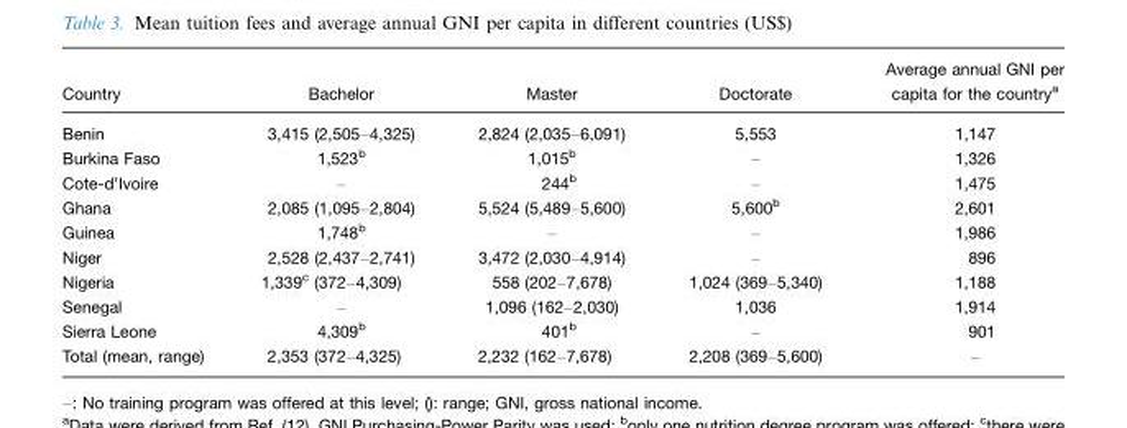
<table><thead><tr><td>Country</td><td>Bachelor</td><td>Master</td><td>Doctorate</td><td>Average annual GNI per capita for the country<sup>a</sup></td></tr></thead><tbody><tr><td>Benin</td><td>3,415 (2,505–4,325)</td><td>2,824 (2,035–6,091)</td><td>5,553</td><td>1,147</td></tr><tr><td>Burkina Faso</td><td>1,523<sup>b</sup></td><td>1,015<sup>b</sup></td><td>–</td><td>1,326</td></tr><tr><td>Cote-d’Ivoire</td><td>–</td><td>244<sup>b</sup></td><td>–</td><td>1,475</td></tr><tr><td>Ghana</td><td>2,085 (1,095–2,804)</td><td>5,524 (5,489–5,600)</td><td>5,600<sup>b</sup></td><td>2,601</td></tr><tr><td>Guinea</td><td>1,748<sup>b</sup></td><td>–</td><td>–</td><td>1,986</td></tr><tr><td>Niger</td><td>2,528 (2,437–2,741)</td><td>3,472 (2,030–4,914)</td><td>–</td><td>896</td></tr><tr><td>Nigeria</td><td>1,339<sup>c</sup> (372–4,309)</td><td>558 (202–7,678)</td><td>1,024 (369–5,340)</td><td>1,188</td></tr><tr><td>Senegal</td><td>–</td><td>1,096 (162–2,030)</td><td>1,036</td><td>1,914</td></tr><tr><td>Sierra Leone</td><td>4,309<sup>b</sup></td><td>401<sup>b</sup></td><td>–</td><td>901</td></tr><tr><td>Total (mean, range)</td><td>2,353 (372–4,325)</td><td>2,232 (162–7,678)</td><td>2,208 (369–5,600)</td><td>–</td></tr></tbody></table>